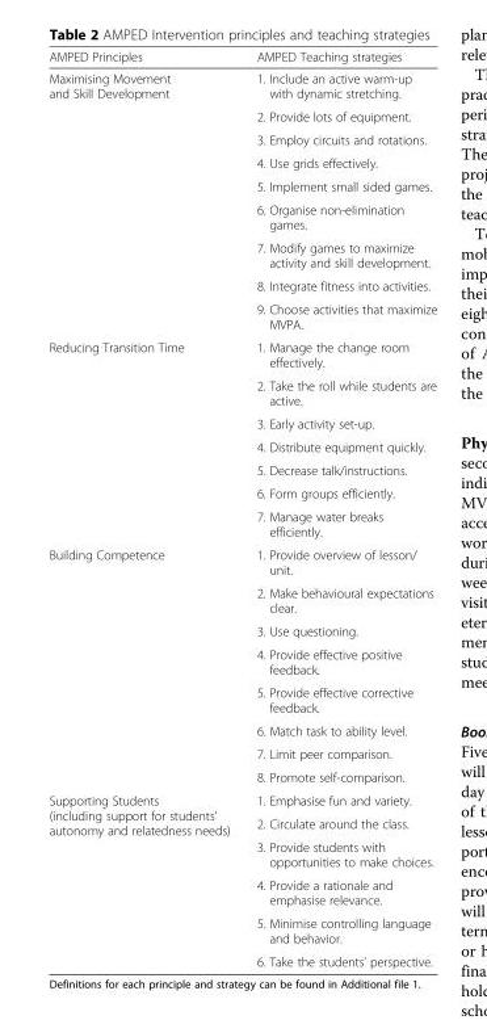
<table><thead><tr><td>AMPED Principles</td><td>AMPED Teaching strategies</td></tr></thead><tbody><tr><td rowspan="9">Maximising Movement and Skill Development</td><td>1. Include an active warm-up with dynamic stretching.</td></tr><tr><td>2. Provide lots of equipment.</td></tr><tr><td>3. Employ circuits and rotations.</td></tr><tr><td>4. Use grids effectively.</td></tr><tr><td>5. Implement small sided games.</td></tr><tr><td>6. Organise non-elimination games.</td></tr><tr><td>7. Modify games to maximize activity and skill development.</td></tr><tr><td>8. Integrate fitness into activities.</td></tr><tr><td>9. Choose activities that maximize MVPA.</td></tr><tr><td rowspan="7">Reducing Transition Time</td><td>1. Manage the change room effectively.</td></tr><tr><td>2. Take the roll while students are active.</td></tr><tr><td>3. Early activity set-up.</td></tr><tr><td>4. Distribute equipment quickly.</td></tr><tr><td>5. Decrease talk/instructions.</td></tr><tr><td>6. Form groups efficiently.</td></tr><tr><td>7. Manage water breaks efficiently.</td></tr><tr><td rowspan="8">Building Competence</td><td>1. Provide overview of lesson/ unit.</td></tr><tr><td>2. Make behavioural expectations clear.</td></tr><tr><td>3. Use questioning.</td></tr><tr><td>4. Provide effective positive feedback.</td></tr><tr><td>5. Provide effective corrective feedback.</td></tr><tr><td>6. Match task to ability level.</td></tr><tr><td>7. Limit peer comparison.</td></tr><tr><td>8. Promote self-comparison.</td></tr><tr><td rowspan="6">Supporting Students (including support for students’ autonomy and relatedness needs)</td><td>1. Emphasise fun and variety.</td></tr><tr><td>2. Circulate around the class.</td></tr><tr><td>3. Provide students with opportunities to make choices.</td></tr><tr><td>4. Provide a rationale and emphasise relevance.</td></tr><tr><td>5. Minimise controlling language and behavior.</td></tr><tr><td>6. Take the students’ perspective.</td></tr></tbody></table>